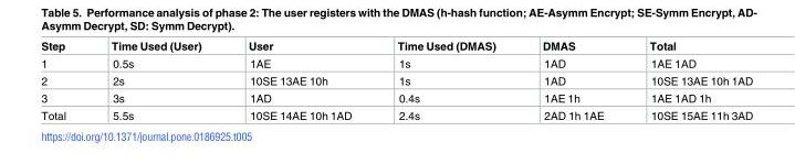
<table><thead><tr><td>Step</td><td>Time Used (User)</td><td>User</td><td>Time Used (DMAS)</td><td>DMAS</td><td>Total</td></tr></thead><tbody><tr><td>1</td><td>0.5s</td><td>1AE</td><td>1s</td><td>1AD</td><td>1AE 1AD</td></tr><tr><td>2</td><td>2s</td><td>10SE 13AE 10h</td><td>1s</td><td>1AD</td><td>10SE 13AE 10h 1AD</td></tr><tr><td>3</td><td>3s</td><td>1AD</td><td>0.4s</td><td>1AE 1h</td><td>1AE 1AD 1h</td></tr><tr><td>Total</td><td>5.5s</td><td>10SE 14AE 10h 1AD</td><td>2.4s</td><td>2AD 1h 1AE</td><td>10SE 15AE 11h 3AD</td></tr></tbody></table>